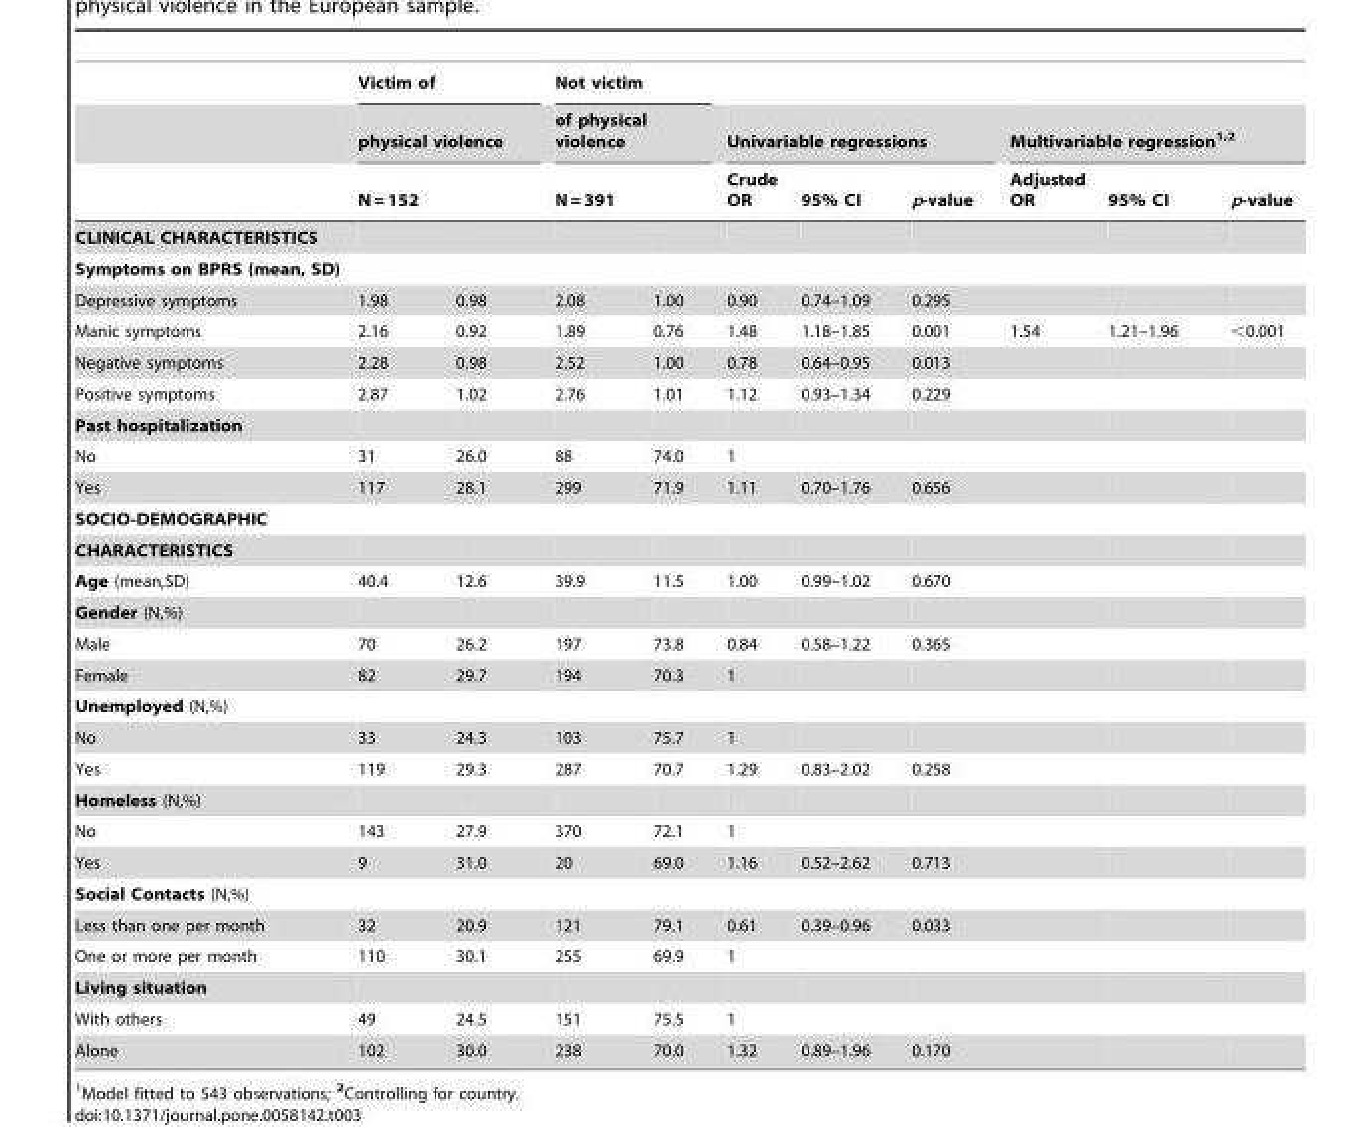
<table><thead><tr><td rowspan="4">CLINICAL CHARACTERISTICS</td><td rowspan="3" colspan="2">Victim of physical violence N = 152</td><td rowspan="3" colspan="2">Not victim of physical violence N = 391</td><td></td><td></td><td></td><td></td><td></td><td></td></tr><tr><td colspan="3">Univariable regressions</td><td colspan="3">Multivariable regression<sup>1,2</sup></td></tr><tr><td rowspan="2">Crude OR</td><td rowspan="2">95% CI</td><td rowspan="2">p-value</td><td rowspan="2">Adjusted OR</td><td rowspan="2">95% CI</td><td rowspan="2">p-value</td></tr><tr><td></td><td></td><td></td><td></td></tr></thead><tbody><tr><td colspan="11">Symptoms on BPRS (mean, SD)</td></tr><tr><td>Depressive symptoms</td><td>1.98</td><td>0.98</td><td>2.08</td><td>1.00</td><td>0.90</td><td>0.74–1.09</td><td>0.295</td><td></td><td></td><td></td></tr><tr><td>Manic symptoms</td><td>2.16</td><td>0.92</td><td>1.89</td><td>0.76</td><td>1.48</td><td>1.18–1.85</td><td>0.001</td><td>1.54</td><td>1.21–1.96</td><td>&lt;0.001</td></tr><tr><td>Negative symptoms</td><td>2.28</td><td>0.98</td><td>2.52</td><td>1.00</td><td>0.78</td><td>0.64–0.95</td><td>0.013</td><td></td><td></td><td></td></tr><tr><td>Positive symptoms</td><td>2.87</td><td>1.02</td><td>2.76</td><td>1.01</td><td>1.12</td><td>0.93–1.34</td><td>0.229</td><td></td><td></td><td></td></tr><tr><td colspan="11">Past hospitalization</td></tr><tr><td>No</td><td>31</td><td>26.0</td><td>88</td><td>74.0</td><td>1</td><td></td><td></td><td></td><td></td><td></td></tr><tr><td>Yes</td><td>117</td><td>28.1</td><td>299</td><td>71.9</td><td>1.11</td><td>0.70–1.76</td><td>0.656</td><td></td><td></td><td></td></tr><tr><td colspan="11">SOCIO-DEMOGRAPHIC</td></tr><tr><td colspan="11">CHARACTERISTICS</td></tr><tr><td>Age (mean,SD)</td><td>40.4</td><td>12.6</td><td>39.9</td><td>11.5</td><td>1.00</td><td>0.99–1.02</td><td>0.670</td><td></td><td></td><td></td></tr><tr><td colspan="11">Gender (N,%)</td></tr><tr><td>Male</td><td>70</td><td>26.2</td><td>197</td><td>73.8</td><td>0.84</td><td>0.58–1.22</td><td>0.365</td><td></td><td></td><td></td></tr><tr><td>Female</td><td>82</td><td>29.7</td><td>194</td><td>70.3</td><td>1</td><td></td><td></td><td></td><td></td><td></td></tr><tr><td colspan="11">Unemployed (N,%)</td></tr><tr><td>No</td><td>33</td><td>24.3</td><td>103</td><td>75.7</td><td>1</td><td></td><td></td><td></td><td></td><td></td></tr><tr><td>Yes</td><td>119</td><td>29.3</td><td>287</td><td>70.7</td><td>1.29</td><td>0.83–2.02</td><td>0.258</td><td></td><td></td><td></td></tr><tr><td colspan="11">Homeless (N,%)</td></tr><tr><td>No</td><td>143</td><td>27.9</td><td>370</td><td>72.1</td><td>1</td><td></td><td></td><td></td><td></td><td></td></tr><tr><td>Yes</td><td>9</td><td>31.0</td><td>20</td><td>69.0</td><td>1.16</td><td>0.52–2.62</td><td>0.713</td><td></td><td></td><td></td></tr><tr><td colspan="11">Social Contacts (N,%)</td></tr><tr><td>Less than one per month</td><td>32</td><td>20.9</td><td>121</td><td>79.1</td><td>0.61</td><td>0.39–0.96</td><td>0.033</td><td></td><td></td><td></td></tr><tr><td>One or more per month</td><td>110</td><td>30.1</td><td>255</td><td>69.9</td><td>1</td><td></td><td></td><td></td><td></td><td></td></tr><tr><td colspan="11">Living situation</td></tr><tr><td>With others</td><td>49</td><td>24.5</td><td>151</td><td>75.5</td><td>1</td><td></td><td></td><td></td><td></td><td></td></tr><tr><td>Alone</td><td>102</td><td>30.0</td><td>238</td><td>70.0</td><td>1.32</td><td>0.89–1.96</td><td>0.170</td><td></td><td></td><td></td></tr></tbody></table>